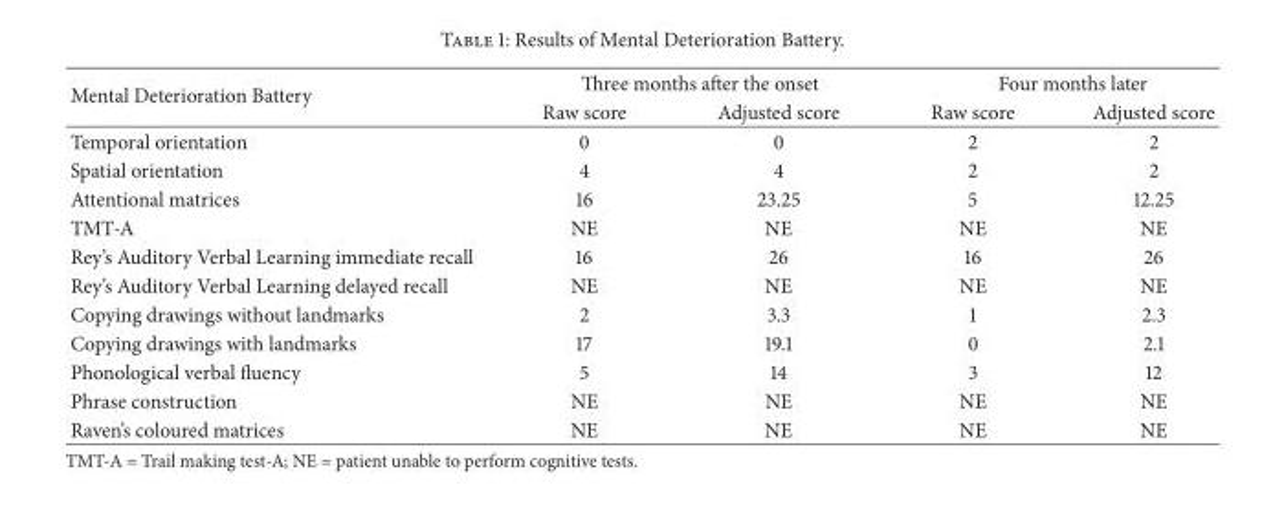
<table><thead><tr><td rowspan="2">Mental Deterioration Battery</td><td colspan="2">Three months after the onset</td><td colspan="2">Four months later</td></tr><tr><td>Raw score</td><td>Adjusted score</td><td>Raw score</td><td>Adjusted score</td></tr></thead><tbody><tr><td>Temporal orientation</td><td>0</td><td>0</td><td>2</td><td>2</td></tr><tr><td>Spatial orientation</td><td>4</td><td>4</td><td>2</td><td>2</td></tr><tr><td>Attentional matrices</td><td>16</td><td>23.25</td><td>5</td><td>12.25</td></tr><tr><td>TMT-A</td><td>NE</td><td>NE</td><td>NE</td><td>NE</td></tr><tr><td>Rey’s Auditory Verbal Learning immediate recall</td><td>16</td><td>26</td><td>16</td><td>26</td></tr><tr><td>Rey’s Auditory Verbal Learning delayed recall</td><td>NE</td><td>NE</td><td>NE</td><td>NE</td></tr><tr><td>Copying drawings without landmarks</td><td>2</td><td>3.3</td><td>1</td><td>2.3</td></tr><tr><td>Copying drawings with landmarks</td><td>17</td><td>19.1</td><td>0</td><td>2.1</td></tr><tr><td>Phonological verbal fluency</td><td>5</td><td>14</td><td>3</td><td>12</td></tr><tr><td>Phrase construction</td><td>NE</td><td>NE</td><td>NE</td><td>NE</td></tr><tr><td>Raven’s coloured matrices</td><td>NE</td><td>NE</td><td>NE</td><td>NE</td></tr></tbody></table>